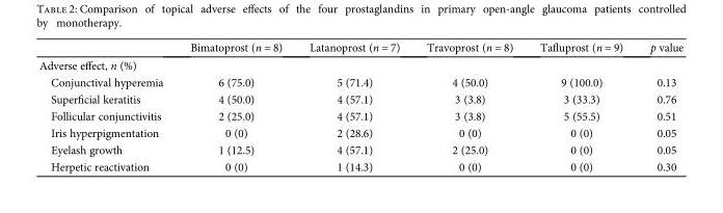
<table><thead><tr><td></td><td>Bimatoprost (n = 8)</td><td>Latanoprost (n = 7)</td><td>Travoprost (n = 8)</td><td>Tafluprost (n = 9)</td><td>p value</td></tr></thead><tbody><tr><td colspan="6">Adverse effect, n (%)</td></tr><tr><td>Conjunctival hyperemia</td><td>6 (75.0)</td><td>5 (71.4)</td><td>4 (50.0)</td><td>9 (100.0)</td><td>0.13</td></tr><tr><td>Superficial keratitis</td><td>4 (50.0)</td><td>4 (57.1)</td><td>3 (3.8)</td><td>3 (33.3)</td><td>0.76</td></tr><tr><td>Follicular conjunctivitis</td><td>2 (25.0)</td><td>4 (57.1)</td><td>3 (3.8)</td><td>5 (55.5)</td><td>0.51</td></tr><tr><td>Iris hyperpigmentation</td><td>0 (0)</td><td>2 (28.6)</td><td>0 (0)</td><td>0 (0)</td><td>0.05</td></tr><tr><td>Eyelash growth</td><td>1 (12.5)</td><td>4 (57.1)</td><td>2 (25.0)</td><td>0 (0)</td><td>0.05</td></tr><tr><td>Herpetic reactivation</td><td>0 (0)</td><td>1 (14.3)</td><td>0 (0)</td><td>0 (0)</td><td>0.30</td></tr></tbody></table>